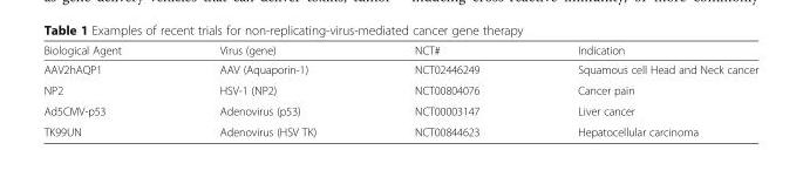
<table><thead><tr><td>Biological Agent</td><td>Virus (gene)</td><td>NCT#</td><td>Indication</td></tr></thead><tbody><tr><td>AAV2hAQP1</td><td>AAV (Aquaporin-1)</td><td>NCT02446249</td><td>Squamous cell Head and Neck cancer</td></tr><tr><td>NP2</td><td>HSV-1 (NP2)</td><td>NCT00804076</td><td>Cancer pain</td></tr><tr><td>Ad5CMV-p53</td><td>Adenovirus (p53)</td><td>NCT00003147</td><td>Liver cancer</td></tr><tr><td>TK99UN</td><td>Adenovirus (HSV TK)</td><td>NCT00844623</td><td>Hepatocellular carcinoma</td></tr></tbody></table>